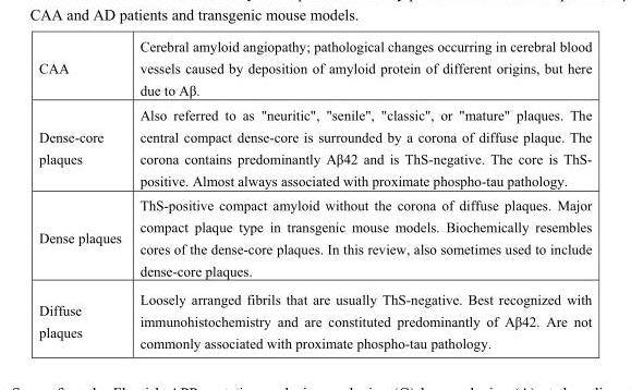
<table><tbody><tr><td>CAA</td><td>Cerebral amyloid angiopathy; pathological changes occurring in cerebral blood vessels caused by deposition of amyloid protein of different origins, but here due to Aβ.</td></tr><tr><td>Dense-core plaques</td><td>Also referred to as &quot;neuritic&quot;, &quot;senile&quot;, &quot;classic&quot;, or &quot;mature&quot; plaques. The central compact dense-core is surrounded by a corona of diffuse plaque. The corona contains predominantly Aβ42 and is ThS-negative. The core is ThS- positive. Almost always associated with proximate phospho-tau pathology.</td></tr><tr><td>Dense plaques</td><td>ThS-positive compact amyloid without the corona of diffuse plaques. Major compact plaque type in transgenic mouse models. Biochemically resembles cores of the dense-core plaques. In this review, also sometimes used to include dense-core plaques.</td></tr><tr><td>Diffuse plaques</td><td>Loosely arranged fibrils that are usually ThS-negative. Best recognized with immunohistochemistry and are constituted predominantly of Aβ42. Are not commonly associated with proximate phospho-tau pathology.</td></tr></tbody></table>